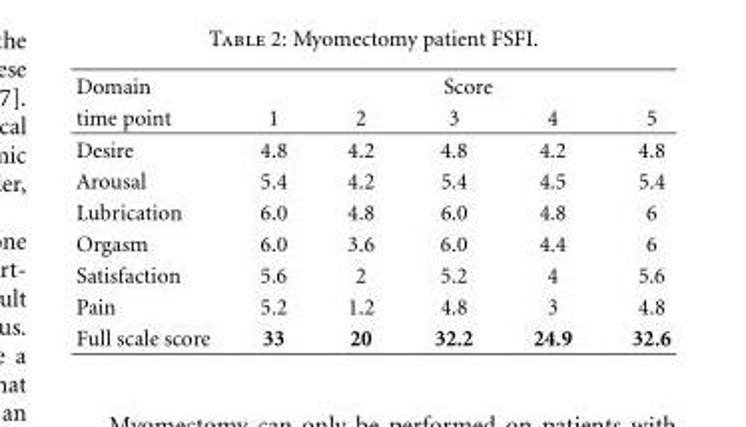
<table><thead><tr><td rowspan="2">Domain time point</td><td colspan="5">Score</td></tr><tr><td>1</td><td>2</td><td>3</td><td>4</td><td>5</td></tr></thead><tbody><tr><td>Desire</td><td>4.8</td><td>4.2</td><td>4.8</td><td>4.2</td><td>4.8</td></tr><tr><td>Arousal</td><td>5.4</td><td>4.2</td><td>5.4</td><td>4.5</td><td>5.4</td></tr><tr><td>Lubrication</td><td>6.0</td><td>4.8</td><td>6.0</td><td>4.8</td><td>6</td></tr><tr><td>Orgasm</td><td>6.0</td><td>3.6</td><td>6.0</td><td>4.4</td><td>6</td></tr><tr><td>Satisfaction</td><td>5.6</td><td>2</td><td>5.2</td><td>4</td><td>5.6</td></tr><tr><td>Pain</td><td>5.2</td><td>1.2</td><td>4.8</td><td>3</td><td>4.8</td></tr><tr><td>Full scale score</td><td>33</td><td>20</td><td>32.2</td><td>24.9</td><td>32.6</td></tr></tbody></table>